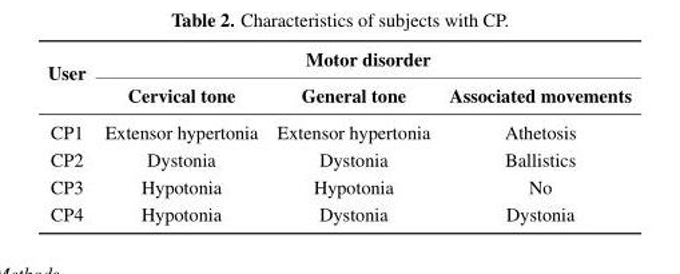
<table><thead><tr><td rowspan="2">User</td><td colspan="3">Motor disorder</td></tr><tr><td>Cervical tone</td><td>General tone</td><td>Associated movements</td></tr></thead><tbody><tr><td>CP1</td><td>Extensor hypertonia</td><td>Extensor hypertonia</td><td>Athetosis</td></tr><tr><td>CP2</td><td>Dystonia</td><td>Dystonia</td><td>Ballistics</td></tr><tr><td>CP3</td><td>Hypotonia</td><td>Hypotonia</td><td>No</td></tr><tr><td>CP4</td><td>Hypotonia</td><td>Dystonia</td><td>Dystonia</td></tr></tbody></table>